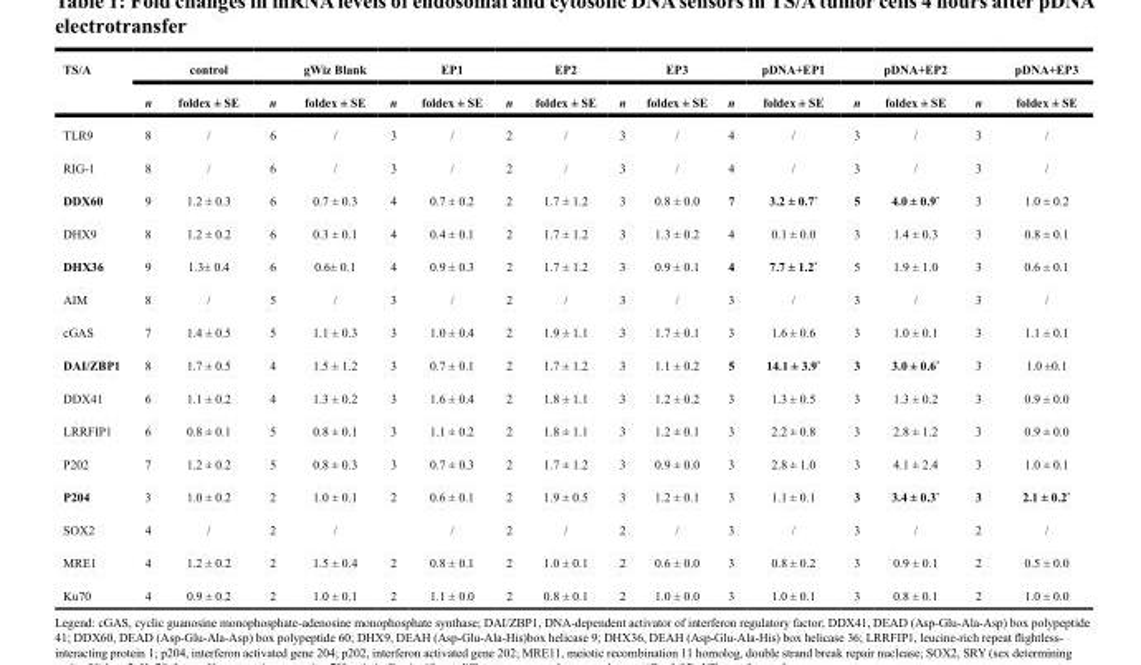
<table><thead><tr><td rowspan="2">TS/A</td><td rowspan="2">n</td><td rowspan="2">control foldex ± SE</td><td rowspan="2">n</td><td rowspan="2">gWiz Blank foldex ± SE</td><td rowspan="2">n</td><td rowspan="2">EP1 foldex ± SE</td><td rowspan="2">n</td><td rowspan="2">EP2 foldex ± SE</td><td rowspan="2">n</td><td rowspan="2">EP3 foldex ± SE</td><td rowspan="2">n</td><td rowspan="2">pDNA+EP1 foldex ± SE</td><td rowspan="2">n</td><td rowspan="2">pDNA+EP2 foldex ± SE</td><td rowspan="2">n</td><td rowspan="2">pDNA+EP3 foldex ± SE</td></tr><tr></tr></thead><tbody><tr><td>TLR9</td><td>8</td><td>/</td><td>6</td><td>/</td><td>3</td><td>/</td><td>2</td><td>/</td><td>3</td><td>/</td><td>4</td><td>/</td><td>3</td><td>/</td><td>3</td><td>/</td></tr><tr><td>RIG-1</td><td>8</td><td>/</td><td>6</td><td>/</td><td>3</td><td>/</td><td>2</td><td>/</td><td>3</td><td>/</td><td>4</td><td>/</td><td>3</td><td>/</td><td>3</td><td>/</td></tr><tr><td>DDX60</td><td>9</td><td>1.2 ± 0.3</td><td>6</td><td>0.7 ± 0.3</td><td>4</td><td>0.7 ± 0.2</td><td>2</td><td>1.7 ± 1.2</td><td>3</td><td>0.8 ± 0.0</td><td>7</td><td>3.2 ± 0.7*</td><td>5</td><td>4.0 ± 0.9*</td><td>3</td><td>1.0 ± 0.2</td></tr><tr><td>DHX9</td><td>8</td><td>1.2 ± 0.2</td><td>6</td><td>0.3 ± 0.1</td><td>4</td><td>0.4 ± 0.1</td><td>2</td><td>1.7 ± 1.2</td><td>3</td><td>1.3 ± 0.2</td><td>4</td><td>0.1 ± 0.0</td><td>3</td><td>1.4 ± 0.3</td><td>3</td><td>0.8 ± 0.1</td></tr><tr><td>DHX36</td><td>9</td><td>1.3± 0.4</td><td>6</td><td>0.6± 0.1</td><td>4</td><td>0.9 ± 0.3</td><td>2</td><td>1.7 ± 1.2</td><td>3</td><td>0.9 ± 0.1</td><td>4</td><td>7.7 ± 1.2*</td><td>5</td><td>1.9 ± 1.0</td><td>3</td><td>0.6 ± 0.1</td></tr><tr><td>AIM</td><td>8</td><td>/</td><td>5</td><td>/</td><td>3</td><td>/</td><td>2</td><td>/</td><td>3</td><td>/</td><td>3</td><td>/</td><td>3</td><td>/</td><td>3</td><td>/</td></tr><tr><td>cGAS</td><td>7</td><td>1.4 ± 0.5</td><td>5</td><td>1.1 ± 0.3</td><td>3</td><td>1.0 ± 0.4</td><td>2</td><td>1.9 ± 1.1</td><td>3</td><td>1.7 ± 0.1</td><td>3</td><td>1.6 ± 0.6</td><td>3</td><td>1.0 ± 0.1</td><td>3</td><td>1.1 ± 0.1</td></tr><tr><td>DAI/ZBP1</td><td>8</td><td>1.7 ± 0.5</td><td>4</td><td>1.5 ± 1.2</td><td>3</td><td>0.7 ± 0.1</td><td>2</td><td>1.7 ± 1.2</td><td>3</td><td>1.1 ± 0.2</td><td>5</td><td>14.1 ± 3.9*</td><td>3</td><td>3.0 ± 0.6*</td><td>3</td><td>1.0 ±0.1</td></tr><tr><td>DDX41</td><td>6</td><td>1.1 ± 0.2</td><td>4</td><td>1.3 ± 0.2</td><td>3</td><td>1.6 ± 0.4</td><td>2</td><td>1.8 ± 1.1</td><td>3</td><td>1.2 ± 0.2</td><td>3</td><td>1.3 ± 0.5</td><td>3</td><td>1.3 ± 0.2</td><td>3</td><td>0.9 ± 0.0</td></tr><tr><td>LRRFIP1</td><td>6</td><td>0.8 ± 0.1</td><td>5</td><td>0.8 ± 0.1</td><td>3</td><td>1.1 ± 0.2</td><td>2</td><td>1.8 ± 1.1</td><td>3</td><td>1.2 ± 0.1</td><td>3</td><td>2.2 ± 0.8</td><td>3</td><td>2.8 ± 1.2</td><td>3</td><td>0.9 ± 0.0</td></tr><tr><td>P202</td><td>7</td><td>1.2 ± 0.2</td><td>5</td><td>0.8 ± 0.3</td><td>3</td><td>0.7 ± 0.3</td><td>2</td><td>1.7 ± 1.2</td><td>3</td><td>0.9 ± 0.0</td><td>3</td><td>2.8 ± 1.0</td><td>3</td><td>4.1 ± 2.4</td><td>3</td><td>1.0 ± 0.1</td></tr><tr><td>P204</td><td>3</td><td>1.0 ± 0.2</td><td>2</td><td>1.0 ± 0.1</td><td>2</td><td>0.6 ± 0.1</td><td>2</td><td>1.9 ± 0.5</td><td>3</td><td>1.2 ± 0.1</td><td>3</td><td>1.1 ± 0.1</td><td>3</td><td>3.4 ± 0.3*</td><td>3</td><td>2.1 ± 0.2*</td></tr><tr><td>SOX2</td><td>4</td><td>/</td><td>2</td><td>/</td><td></td><td>/</td><td>2</td><td>/</td><td>2</td><td>/</td><td>3</td><td>/</td><td>3</td><td>/</td><td>2</td><td>/</td></tr><tr><td>MRE1</td><td>4</td><td>1.2 ± 0.2</td><td>2</td><td>1.5 ± 0.4</td><td>2</td><td>0.8 ± 0.1</td><td>2</td><td>1.0 ± 0.1</td><td>2</td><td>0.6 ± 0.0</td><td>3</td><td>0.8 ± 0.2</td><td>3</td><td>0.9 ± 0.1</td><td>2</td><td>0.5 ± 0.0</td></tr><tr><td>Ku70</td><td>4</td><td>0.9 ± 0.2</td><td>2</td><td>1.0 ± 0.1</td><td>2</td><td>1.1 ± 0.0</td><td>2</td><td>0.8 ± 0.1</td><td>2</td><td>1.0 ± 0.0</td><td>3</td><td>1.0 ± 0.1</td><td>3</td><td>0.8 ± 0.1</td><td>2</td><td>1.0 ± 0.0</td></tr></tbody></table>